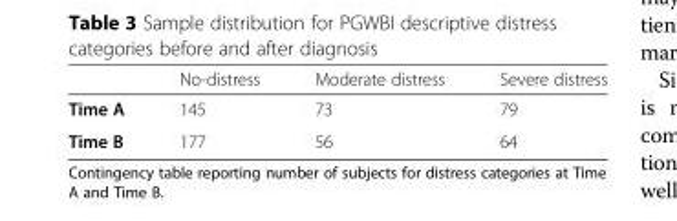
<table><thead><tr><td></td><td>No-distress</td><td>Moderate distress</td><td>Severe distress</td></tr></thead><tbody><tr><td>Time A</td><td>145</td><td>73</td><td>79</td></tr><tr><td>Time B</td><td>177</td><td>56</td><td>64</td></tr></tbody></table>